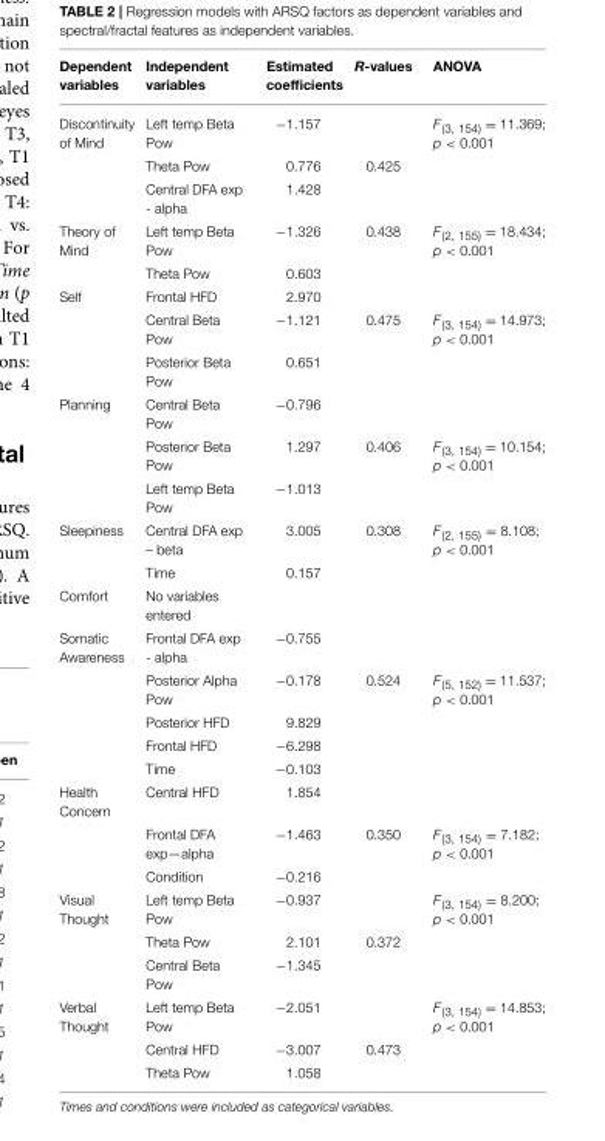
<table><thead><tr><td>Dependent variables</td><td>Independent variables</td><td>Estimated coefficients</td><td>R-values</td><td>ANOVA</td></tr></thead><tbody><tr><td rowspan="3">Discontinuity of Mind</td><td>Left temp Beta Pow</td><td>−1.157</td><td></td><td>F<sub>(3, 154)</sub> = 11.369; p &lt; 0.001</td></tr><tr><td>Theta Pow</td><td>0.776</td><td>0.425</td><td></td></tr><tr><td>Central DFA exp - alpha</td><td>1.428</td><td></td><td></td></tr><tr><td rowspan="2">Theory of Mind</td><td>Left temp Beta Pow</td><td>−1.326</td><td>0.438</td><td>F<sub>(2, 155)</sub> = 18.434; p &lt; 0.001</td></tr><tr><td>Theta Pow</td><td>0.603</td><td></td><td></td></tr><tr><td rowspan="3">Self</td><td>Frontal HFD</td><td>2.970</td><td></td><td></td></tr><tr><td>Central Beta Pow</td><td>−1.121</td><td>0.475</td><td>F<sub>(3, 154)</sub> = 14.973; p &lt; 0.001</td></tr><tr><td>Posterior Beta Pow</td><td>0.651</td><td></td><td></td></tr><tr><td rowspan="3">Planning</td><td>Central Beta Pow</td><td>−0.796</td><td></td><td></td></tr><tr><td>Posterior Beta Pow</td><td>1.297</td><td>0.406</td><td>F<sub>(3, 154)</sub> = 10.154; p &lt; 0.001</td></tr><tr><td>Left temp Beta Pow</td><td>−1.013</td><td></td><td></td></tr><tr><td rowspan="2">Sleepiness</td><td>Central DFA exp – beta</td><td>3.005</td><td>0.308</td><td>F<sub>(2, 155)</sub> = 8.108; p &lt; 0.001</td></tr><tr><td>Time</td><td>0.157</td><td></td><td></td></tr><tr><td>Comfort</td><td>No variables entered</td><td></td><td></td><td></td></tr><tr><td rowspan="5">Somatic Awareness</td><td>Frontal DFA exp - alpha</td><td>−0.755</td><td></td><td></td></tr><tr><td>Posterior Alpha Pow</td><td>−0.178</td><td>0.524</td><td>F<sub>(5, 152)</sub> = 11.537; p &lt; 0.001</td></tr><tr><td>Posterior HFD</td><td>9.829</td><td></td><td></td></tr><tr><td>Frontal HFD</td><td>−6.298</td><td></td><td></td></tr><tr><td>Time</td><td>−0.103</td><td></td><td></td></tr><tr><td rowspan="3">Health Concern</td><td>Central HFD</td><td>1.854</td><td></td><td></td></tr><tr><td>Frontal DFA exp—alpha</td><td>−1.463</td><td>0.350</td><td>F<sub>(3, 154)</sub> = 7.182; p &lt; 0.001</td></tr><tr><td>Condition</td><td>−0.216</td><td></td><td></td></tr><tr><td rowspan="3">Visual Thought</td><td>Left temp Beta Pow</td><td>−0.937</td><td></td><td>F<sub>(3, 154)</sub> = 8.200; p &lt; 0.001</td></tr><tr><td>Theta Pow</td><td>2.101</td><td>0.372</td><td></td></tr><tr><td>Central Beta Pow</td><td>−1.345</td><td></td><td></td></tr><tr><td rowspan="3">Verbal Thought</td><td>Left temp Beta Pow</td><td>−2.051</td><td></td><td>F<sub>(3, 154)</sub> = 14.853; p &lt; 0.001</td></tr><tr><td>Central HFD</td><td>−3.007</td><td>0.473</td><td></td></tr><tr><td>Theta Pow</td><td>1.058</td><td></td><td></td></tr></tbody></table>